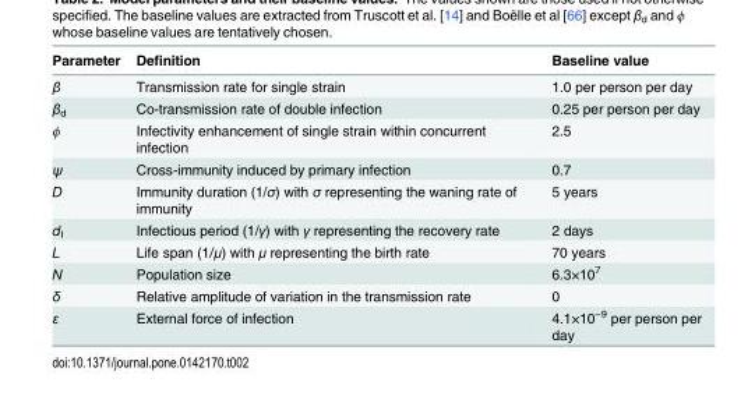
<table><thead><tr><td>Parameter</td><td>Definition</td><td>Baseline value</td></tr></thead><tbody><tr><td>β</td><td>Transmission rate for single strain</td><td>1.0 per person per day</td></tr><tr><td>β<sub>d</sub></td><td>Co-transmission rate of double infection</td><td>0.25 per person per day</td></tr><tr><td>ϕ</td><td>Infectivity enhancement of single strain within concurrent infection</td><td>2.5</td></tr><tr><td>ψ</td><td>Cross-immunity induced by primary infection</td><td>0.7</td></tr><tr><td>D</td><td>Immunity duration (1/σ) with σ representing the waning rate of immunity</td><td>5 years</td></tr><tr><td>d<sub>I</sub></td><td>Infectious period (1/γ) with γ representing the recovery rate</td><td>2 days</td></tr><tr><td>L</td><td>Life span (1/μ) with μ representing the birth rate</td><td>70 years</td></tr><tr><td>N</td><td>Population size</td><td>6.3×10<sup>7</sup></td></tr><tr><td>δ</td><td>Relative amplitude of variation in the transmission rate</td><td>0</td></tr><tr><td>ε</td><td>External force of infection</td><td>4.1×10<sup>−9</sup> per person per day</td></tr></tbody></table>